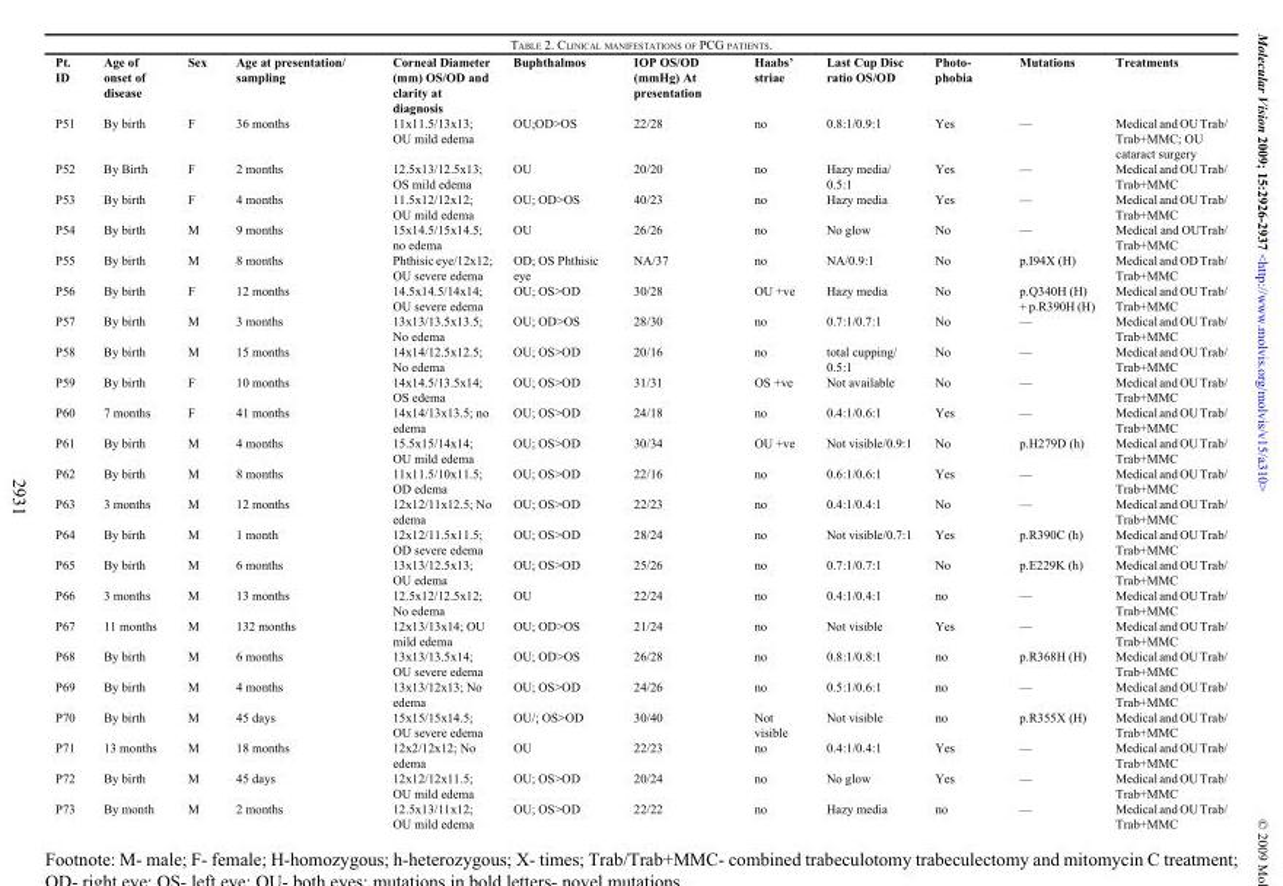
<table><thead><tr><td>Pt. ID</td><td>Age of onset of disease</td><td>Sex</td><td>Age at presentation/ sampling</td><td>Corneal Diameter (mm) OS/OD and clarity at diagnosis</td><td>Buphthalmos</td><td>IOP OS/OD (mmHg) At presentation</td><td>Haabs’ striae</td><td>Last Cup Disc ratio OS/OD</td><td>Photo- phobia</td><td>Mutations</td><td>Treatments</td></tr></thead><tbody><tr><td>P51</td><td>By birth</td><td>F</td><td>36 months</td><td>11x11.5/13x13; OU mild edema</td><td>OU;OD&gt;OS</td><td>22/28</td><td>no</td><td>0.8:1/0.9:1</td><td>Yes</td><td>—</td><td>Medical and OU Trab/ Trab+MMC; OU cataract surgery</td></tr><tr><td>P52</td><td>By Birth</td><td>F</td><td>2 months</td><td>12.5x13/12.5x13; OS mild edema</td><td>OU</td><td>20/20</td><td>no</td><td>Hazy media/ 0.5:1</td><td>Yes</td><td>—</td><td>Medical and OU Trab/ Trab+MMC</td></tr><tr><td>P53</td><td>By birth</td><td>F</td><td>4 months</td><td>11.5x12/12x12; OU mild edema</td><td>OU; OD&gt;OS</td><td>40/23</td><td>no</td><td>Hazy media</td><td>Yes</td><td>—</td><td>Medical and OU Trab/ Trab+MMC</td></tr><tr><td>P54</td><td>By birth</td><td>M</td><td>9 months</td><td>15x14.5/15x14.5; no edema</td><td>OU</td><td>26/26</td><td>no</td><td>No glow</td><td>No</td><td>—</td><td>Medical and OUTrab/ Trab+MMC</td></tr><tr><td>P55</td><td>By birth</td><td>M</td><td>8 months</td><td>Phthisic eye/12x12; OU severe edema</td><td>OD; OS Phthisic eye</td><td>NA/37</td><td>no</td><td>NA/0.9:1</td><td>No</td><td>p.I94X (H)</td><td>Medical and OD Trab/ Trab+MMC</td></tr><tr><td>P56</td><td>By birth</td><td>F</td><td>12 months</td><td>14.5x14.5/14x14; OU severe edema</td><td>OU; OS&gt;OD</td><td>30/28</td><td>OU +ve</td><td>Hazy media</td><td>No</td><td>p.Q340H (H) + p.R390H (H)</td><td>Medical and OU Trab/ Trab+MMC</td></tr><tr><td>P57</td><td>By birth</td><td>M</td><td>3 months</td><td>13x13/13.5x13.5; No edema</td><td>OU; OD&gt;OS</td><td>28/30</td><td>no</td><td>0.7:1/0.7:1</td><td>No</td><td>—</td><td>Medical and OU Trab/ Trab+MMC</td></tr><tr><td>P58</td><td>By birth</td><td>M</td><td>15 months</td><td>14x14/12.5x12.5; No edema</td><td>OU; OS&gt;OD</td><td>20/16</td><td>no</td><td>total cupping/ 0.5:1</td><td>No</td><td>—</td><td>Medical and OU Trab/ Trab+MMC</td></tr><tr><td>P59</td><td>By birth</td><td>F</td><td>10 months</td><td>14x14.5/13.5x14; OS edema</td><td>OU; OS&gt;OD</td><td>31/31</td><td>OS +ve</td><td>Not available</td><td>No</td><td>—</td><td>Medical and OU Trab/ Trab+MMC</td></tr><tr><td>P60</td><td>7 months</td><td>F</td><td>41 months</td><td>14x14/13x13.5; no edema</td><td>OU; OS&gt;OD</td><td>24/18</td><td>no</td><td>0.4:1/0.6:1</td><td>Yes</td><td>—</td><td>Medical and OU Trab/ Trab+MMC</td></tr><tr><td>P61</td><td>By birth</td><td>M</td><td>4 months</td><td>15.5x15/14x14; OU mild edema</td><td>OU; OS&gt;OD</td><td>30/34</td><td>OU +ve</td><td>Not visible/0.9:1</td><td>No</td><td>p.H279D (h)</td><td>Medical and OU Trab/ Trab+MMC</td></tr><tr><td>P62</td><td>By birth</td><td>M</td><td>8 months</td><td>11x11.5/10x11.5; OD edema</td><td>OU; OS&gt;OD</td><td>22/16</td><td>no</td><td>0.6:1/0.6:1</td><td>Yes</td><td>—</td><td>Medical and OU Trab/ Trab+MMC</td></tr><tr><td>P63</td><td>3 months</td><td>M</td><td>12 months</td><td>12x12/11x12.5; No edema</td><td>OU; OS&gt;OD</td><td>22/23</td><td>no</td><td>0.4:1/0.4:1</td><td>No</td><td>—</td><td>Medical and OU Trab/ Trab+MMC</td></tr><tr><td>P64</td><td>By birth</td><td>M</td><td>1 month</td><td>12x12/11.5x11.5; OD severe edema</td><td>OU; OS&gt;OD</td><td>28/24</td><td>no</td><td>Not visible/0.7:1</td><td>Yes</td><td>p.R390C (h)</td><td>Medical and OU Trab/ Trab+MMC</td></tr><tr><td>P65</td><td>By birth</td><td>M</td><td>6 months</td><td>13x13/12.5x13; OU edema</td><td>OU; OS&gt;OD</td><td>25/26</td><td>no</td><td>0.7:1/0.7:1</td><td>No</td><td>p.E229K (h)</td><td>Medical and OU Trab/ Trab+MMC</td></tr><tr><td>P66</td><td>3 months</td><td>M</td><td>13 months</td><td>12.5x12/12.5x12; No edema</td><td>OU</td><td>22/24</td><td>no</td><td>0.4:1/0.4:1</td><td>no</td><td>—</td><td>Medical and OU Trab/ Trab+MMC</td></tr><tr><td>P67</td><td>11 months</td><td>M</td><td>132 months</td><td>12x13/13x14; OU mild edema</td><td>OU; OD&gt;OS</td><td>21/24</td><td>no</td><td>Not visible</td><td>Yes</td><td>—</td><td>Medical and OU Trab/ Trab+MMC</td></tr><tr><td>P68</td><td>By birth</td><td>M</td><td>6 months</td><td>13x13/13.5x14; OU severe edema</td><td>OU; OD&gt;OS</td><td>26/28</td><td>no</td><td>0.8:1/0.8:1</td><td>no</td><td>p.R368H (H)</td><td>Medical and OU Trab/ Trab+MMC</td></tr><tr><td>P69</td><td>By birth</td><td>M</td><td>4 months</td><td>13x13/12x13; No edema</td><td>OU; OS&gt;OD</td><td>24/26</td><td>no</td><td>0.5:1/0.6:1</td><td>no</td><td>—</td><td>Medical and OU Trab/ Trab+MMC</td></tr><tr><td>P70</td><td>By birth</td><td>M</td><td>45 days</td><td>15x15/15x14.5; OU severe edema</td><td>OU/; OS&gt;OD</td><td>30/40</td><td>Not visible</td><td>Not visible</td><td>no</td><td>p.R355X (H)</td><td>Medical and OU Trab/ Trab+MMC</td></tr><tr><td>P71</td><td>13 months</td><td>M</td><td>18 months</td><td>12x2/12x12; No edema</td><td>OU</td><td>22/23</td><td>no</td><td>0.4:1/0.4:1</td><td>Yes</td><td>—</td><td>Medical and OU Trab/ Trab+MMC</td></tr><tr><td>P72</td><td>By birth</td><td>M</td><td>45 days</td><td>12x12/12x11.5; OU mild edema</td><td>OU; OS&gt;OD</td><td>20/24</td><td>no</td><td>No glow</td><td>Yes</td><td>—</td><td>Medical and OU Trab/ Trab+MMC</td></tr><tr><td>P73</td><td>By month</td><td>M</td><td>2 months</td><td>12.5x13/11x12; OU mild edema</td><td>OU; OS&gt;OD</td><td>22/22</td><td>no</td><td>Hazy media</td><td>no</td><td>—</td><td>Medical and OU Trab/ Trab+MMC</td></tr></tbody></table>